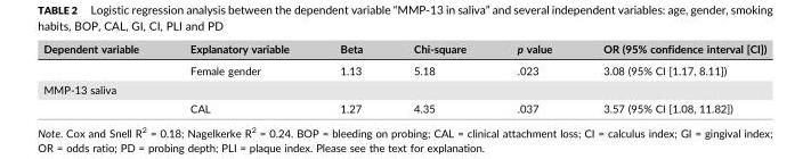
<table><thead><tr><td>Dependent variable</td><td>Explanatory variable</td><td>Beta</td><td>Chi‐square</td><td>p value</td><td>OR (95% confidence interval [CI])</td></tr></thead><tbody><tr><td></td><td>Female gender</td><td>1.13</td><td>5.18</td><td>.023</td><td>3.08 (95% CI [1.17, 8.11])</td></tr><tr><td colspan="6">MMP‐13 saliva</td></tr><tr><td></td><td>CAL</td><td>1.27</td><td>4.35</td><td>.037</td><td>3.57 (95% CI [1.08, 11.82])</td></tr></tbody></table>